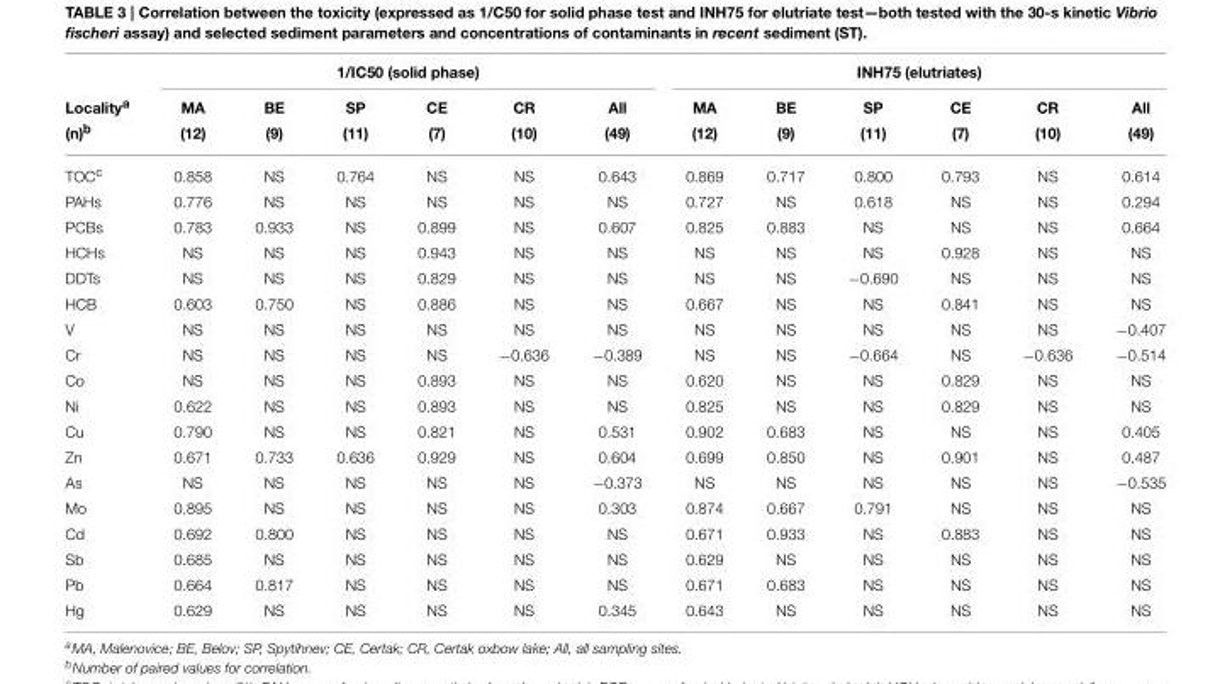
<table><thead><tr><td rowspan="2">Locality<sup>a</sup> (n)<sup>b</sup></td><td colspan="6">1/IC50 (solid phase)</td><td colspan="6">INH75 (elutriates)</td></tr><tr><td>MA (12)</td><td>BE (9)</td><td>SP (11)</td><td>CE (7)</td><td>CR (10)</td><td>All (49)</td><td>MA (12)</td><td>BE (9)</td><td>SP (11)</td><td>CE (7)</td><td>CR (10)</td><td>All (49)</td></tr></thead><tbody><tr><td>TOC<sup>c</sup></td><td>0.858</td><td>NS</td><td>0.764</td><td>NS</td><td>NS</td><td>0.643</td><td>0.869</td><td>0.717</td><td>0.800</td><td>0.793</td><td>NS</td><td>0.614</td></tr><tr><td>PAHs</td><td>0.776</td><td>NS</td><td>NS</td><td>NS</td><td>NS</td><td>NS</td><td>0.727</td><td>NS</td><td>0.618</td><td>NS</td><td>NS</td><td>0.294</td></tr><tr><td>PCBs</td><td>0.783</td><td>0.933</td><td>NS</td><td>0.899</td><td>NS</td><td>0.607</td><td>0.825</td><td>0.883</td><td>NS</td><td>NS</td><td>NS</td><td>0.664</td></tr><tr><td>HCHs</td><td>NS</td><td>NS</td><td>NS</td><td>0.943</td><td>NS</td><td>NS</td><td>NS</td><td>NS</td><td>NS</td><td>0.928</td><td>NS</td><td>NS</td></tr><tr><td>DDTs</td><td>NS</td><td>NS</td><td>NS</td><td>0.829</td><td>NS</td><td>NS</td><td>NS</td><td>NS</td><td>−0.690</td><td>NS</td><td>NS</td><td>NS</td></tr><tr><td>HCB</td><td>0.603</td><td>0.750</td><td>NS</td><td>0.886</td><td>NS</td><td>NS</td><td>0.667</td><td>NS</td><td>NS</td><td>0.841</td><td>NS</td><td>NS</td></tr><tr><td>V</td><td>NS</td><td>NS</td><td>NS</td><td>NS</td><td>NS</td><td>NS</td><td>NS</td><td>NS</td><td>NS</td><td>NS</td><td>NS</td><td>−0.407</td></tr><tr><td>Cr</td><td>NS</td><td>NS</td><td>NS</td><td>NS</td><td>−0.636</td><td>−0.389</td><td>NS</td><td>NS</td><td>−0.664</td><td>NS</td><td>−0.636</td><td>−0.514</td></tr><tr><td>Co</td><td>NS</td><td>NS</td><td>NS</td><td>0.893</td><td>NS</td><td>NS</td><td>0.620</td><td>NS</td><td>NS</td><td>0.829</td><td>NS</td><td>NS</td></tr><tr><td>Ni</td><td>0.622</td><td>NS</td><td>NS</td><td>0.893</td><td>NS</td><td>NS</td><td>0.825</td><td>NS</td><td>NS</td><td>0.829</td><td>NS</td><td>NS</td></tr><tr><td>Cu</td><td>0.790</td><td>NS</td><td>NS</td><td>0.821</td><td>NS</td><td>0.531</td><td>0.902</td><td>0.683</td><td>NS</td><td>NS</td><td>NS</td><td>0.405</td></tr><tr><td>Zn</td><td>0.671</td><td>0.733</td><td>0.636</td><td>0.929</td><td>NS</td><td>0.604</td><td>0.699</td><td>0.850</td><td>NS</td><td>0.901</td><td>NS</td><td>0.487</td></tr><tr><td>As</td><td>NS</td><td>NS</td><td>NS</td><td>NS</td><td>NS</td><td>−0.373</td><td>NS</td><td>NS</td><td>NS</td><td>NS</td><td>NS</td><td>−0.535</td></tr><tr><td>Mo</td><td>0.895</td><td>NS</td><td>NS</td><td>NS</td><td>NS</td><td>0.303</td><td>0.874</td><td>0.667</td><td>0.791</td><td>NS</td><td>NS</td><td>NS</td></tr><tr><td>Cd</td><td>0.692</td><td>0.800</td><td>NS</td><td>NS</td><td>NS</td><td>NS</td><td>0.671</td><td>0.933</td><td>NS</td><td>0.883</td><td>NS</td><td>NS</td></tr><tr><td>Sb</td><td>0.685</td><td>NS</td><td>NS</td><td>NS</td><td>NS</td><td>NS</td><td>0.629</td><td>NS</td><td>NS</td><td>NS</td><td>NS</td><td>NS</td></tr><tr><td>Pb</td><td>0.664</td><td>0.817</td><td>NS</td><td>NS</td><td>NS</td><td>NS</td><td>0.671</td><td>0.683</td><td>NS</td><td>NS</td><td>NS</td><td>NS</td></tr><tr><td>Hg</td><td>0.629</td><td>NS</td><td>NS</td><td>NS</td><td>NS</td><td>0.345</td><td>0.643</td><td>NS</td><td>NS</td><td>NS</td><td>NS</td><td>NS</td></tr></tbody></table>